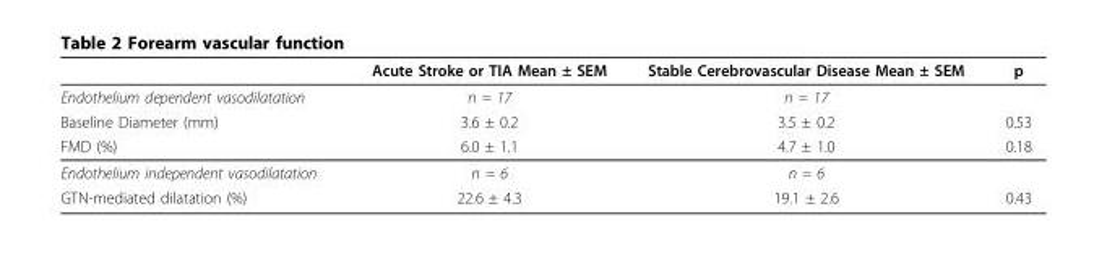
<table><thead><tr><td></td><td>Acute Stroke or TIA Mean ± SEM</td><td>Stable Cerebrovascular Disease Mean ± SEM</td><td>p</td></tr></thead><tbody><tr><td>Endothelium dependent vasodilatation</td><td>n = 17</td><td>n = 17</td><td></td></tr><tr><td>Baseline Diameter (mm)</td><td>3.6 ± 0.2</td><td>3.5 ± 0.2</td><td>0.53</td></tr><tr><td>FMD (%)</td><td>6.0 ± 1.1</td><td>4.7 ± 1.0</td><td>0.18</td></tr><tr><td>Endothelium independent vasodilatation</td><td>n = 6</td><td>n = 6</td><td></td></tr><tr><td>GTN-mediated dilatation (%)</td><td>22.6 ± 4.3</td><td>19.1 ± 2.6</td><td>0.43</td></tr></tbody></table>